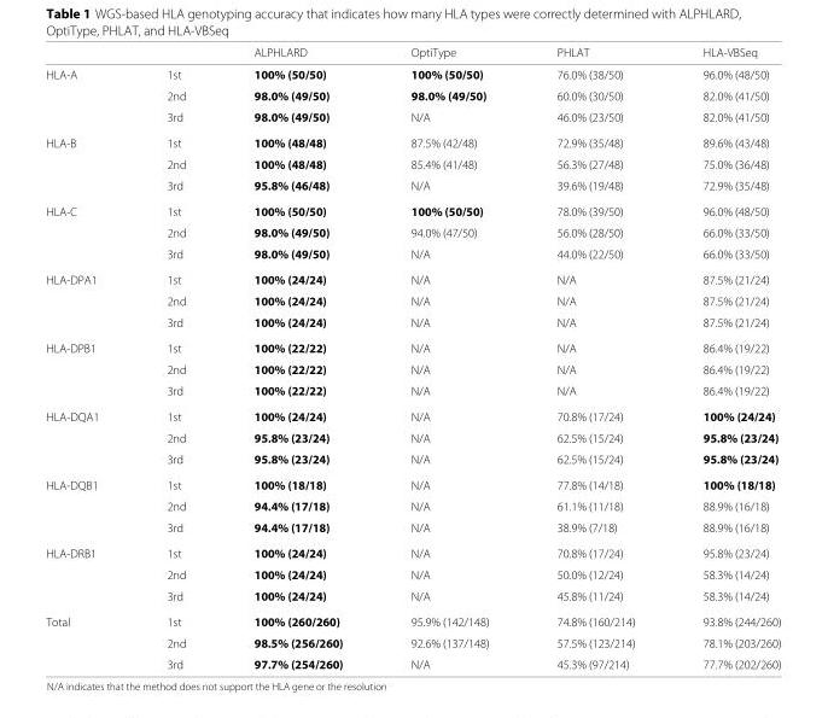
<table><thead><tr><td></td><td></td><td>ALPHLARD</td><td>OptiType</td><td>PHLAT</td><td>HLA-VBSeq</td></tr></thead><tbody><tr><td rowspan="3">HLA-A</td><td>1st</td><td>100% (50/50)</td><td>100% (50/50)</td><td>76.0% (38/50)</td><td>96.0% (48/50)</td></tr><tr><td>2nd</td><td>98.0% (49/50)</td><td>98.0% (49/50)</td><td>60.0% (30/50)</td><td>82.0% (41/50)</td></tr><tr><td>3rd</td><td>98.0% (49/50)</td><td>N/A</td><td>46.0% (23/50)</td><td>82.0% (41/50)</td></tr><tr><td rowspan="3">HLA-B</td><td>1st</td><td>100% (48/48)</td><td>87.5% (42/48)</td><td>72.9% (35/48)</td><td>89.6% (43/48)</td></tr><tr><td>2nd</td><td>100% (48/48)</td><td>85.4% (41/48)</td><td>56.3% (27/48)</td><td>75.0% (36/48)</td></tr><tr><td>3rd</td><td>95.8% (46/48)</td><td>N/A</td><td>39.6% (19/48)</td><td>72.9% (35/48)</td></tr><tr><td rowspan="3">HLA-C</td><td>1st</td><td>100% (50/50)</td><td>100% (50/50)</td><td>78.0% (39/50)</td><td>96.0% (48/50)</td></tr><tr><td>2nd</td><td>98.0% (49/50)</td><td>94.0% (47/50)</td><td>56.0% (28/50)</td><td>66.0% (33/50)</td></tr><tr><td>3rd</td><td>98.0% (49/50)</td><td>N/A</td><td>44.0% (22/50)</td><td>66.0% (33/50)</td></tr><tr><td rowspan="3">HLA-DPA1</td><td>1st</td><td>100% (24/24)</td><td>N/A</td><td>N/A</td><td>87.5% (21/24)</td></tr><tr><td>2nd</td><td>100% (24/24)</td><td>N/A</td><td>N/A</td><td>87.5% (21/24)</td></tr><tr><td>3rd</td><td>100% (24/24)</td><td>N/A</td><td>N/A</td><td>87.5% (21/24)</td></tr><tr><td rowspan="3">HLA-DPB1</td><td>1st</td><td>100% (22/22)</td><td>N/A</td><td>N/A</td><td>86.4% (19/22)</td></tr><tr><td>2nd</td><td>100% (22/22)</td><td>N/A</td><td>N/A</td><td>86.4% (19/22)</td></tr><tr><td>3rd</td><td>100% (22/22)</td><td>N/A</td><td>N/A</td><td>86.4% (19/22)</td></tr><tr><td rowspan="3">HLA-DQA1</td><td>1st</td><td>100% (24/24)</td><td>N/A</td><td>70.8% (17/24)</td><td>100% (24/24)</td></tr><tr><td>2nd</td><td>95.8% (23/24)</td><td>N/A</td><td>62.5% (15/24)</td><td>95.8% (23/24)</td></tr><tr><td>3rd</td><td>95.8% (23/24)</td><td>N/A</td><td>62.5% (15/24)</td><td>95.8% (23/24)</td></tr><tr><td rowspan="3">HLA-DQB1</td><td>1st</td><td>100% (18/18)</td><td>N/A</td><td>77.8% (14/18)</td><td>100% (18/18)</td></tr><tr><td>2nd</td><td>94.4% (17/18)</td><td>N/A</td><td>61.1% (11/18)</td><td>88.9% (16/18)</td></tr><tr><td>3rd</td><td>94.4% (17/18)</td><td>N/A</td><td>38.9% (7/18)</td><td>88.9% (16/18)</td></tr><tr><td rowspan="3">HLA-DRB1</td><td>1st</td><td>100% (24/24)</td><td>N/A</td><td>70.8% (17/24)</td><td>95.8% (23/24)</td></tr><tr><td>2nd</td><td>100% (24/24)</td><td>N/A</td><td>50.0% (12/24)</td><td>58.3% (14/24)</td></tr><tr><td>3rd</td><td>100% (24/24)</td><td>N/A</td><td>45.8% (11/24)</td><td>58.3% (14/24)</td></tr><tr><td rowspan="3">Total</td><td>1st</td><td>100% (260/260)</td><td>95.9% (142/148)</td><td>74.8% (160/214)</td><td>93.8% (244/260)</td></tr><tr><td>2nd</td><td>98.5% (256/260)</td><td>92.6% (137/148)</td><td>57.5% (123/214)</td><td>78.1% (203/260)</td></tr><tr><td>3rd</td><td>97.7% (254/260)</td><td>N/A</td><td>45.3% (97/214)</td><td>77.7% (202/260)</td></tr></tbody></table>